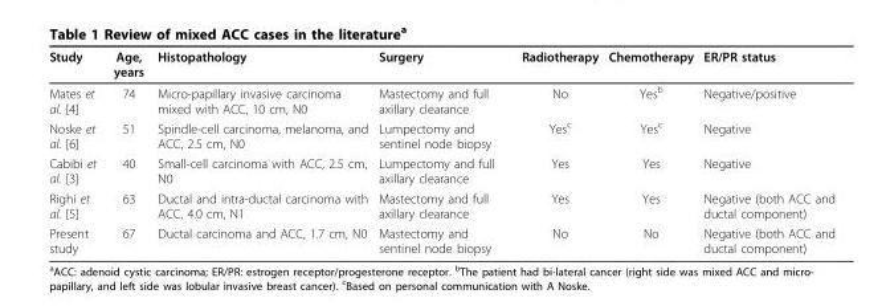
<table><thead><tr><td>Study</td><td>Age, years</td><td>Histopathology</td><td>Surgery</td><td>Radiotherapy</td><td>Chemotherapy</td><td>ER/PR status</td></tr></thead><tbody><tr><td>Mates et al. [4]</td><td>74</td><td>Micro-papillary invasive carcinoma mixed with ACC, 10 cm, N0</td><td>Mastectomy and full axillary clearance</td><td>No</td><td>Yes<sup>b</sup></td><td>Negative/positive</td></tr><tr><td>Noske et al. [6]</td><td>51</td><td>Spindle-cell carcinoma, melanoma, and ACC, 2.5 cm, N0</td><td>Lumpectomy and sentinel node biopsy</td><td>Yes<sup>c</sup></td><td>Yes<sup>c</sup></td><td>Negative</td></tr><tr><td>Cabibi et al. [3]</td><td>40</td><td>Small-cell carcinoma with ACC, 2.5 cm, N0</td><td>Lumpectomy and full axillary clearance</td><td>Yes</td><td>Yes</td><td>Negative</td></tr><tr><td>Righi et al. [5]</td><td>63</td><td>Ductal and intra-ductal carcinoma with ACC, 4.0 cm, N1</td><td>Mastectomy and full axillary clearance</td><td>Yes</td><td>Yes</td><td>Negative (both ACC and ductal component)</td></tr><tr><td>Present study</td><td>67</td><td>Ductal carcinoma and ACC, 1.7 cm, N0</td><td>Mastectomy and sentinel node biopsy</td><td>No</td><td>No</td><td>Negative (both ACC and ductal component)</td></tr></tbody></table>